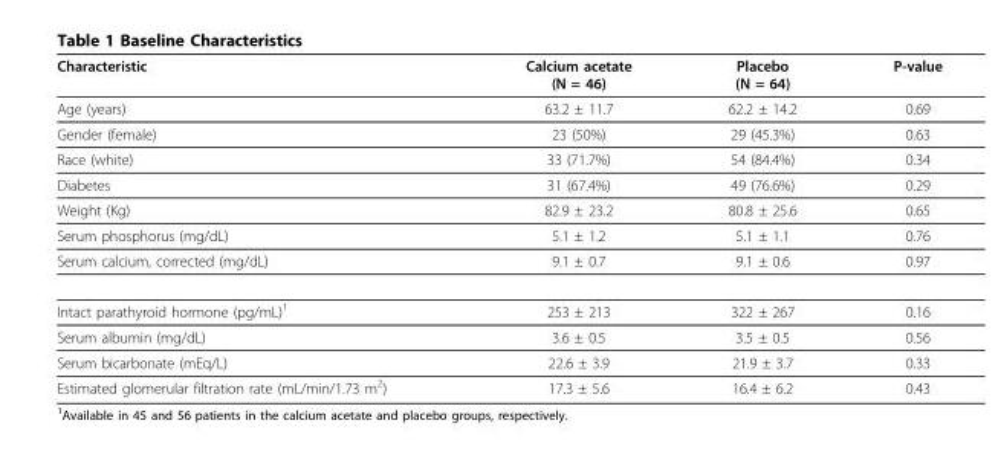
<table><thead><tr><td>Characteristic</td><td>Calcium acetate (N = 46)</td><td>Placebo (N = 64)</td><td>P-value</td></tr></thead><tbody><tr><td>Age (years)</td><td>63.2 ± 11.7</td><td>62.2 ± 14.2</td><td>0.69</td></tr><tr><td>Gender (female)</td><td>23 (50%)</td><td>29 (45.3%)</td><td>0.63</td></tr><tr><td>Race (white)</td><td>33 (71.7%)</td><td>54 (84.4%)</td><td>0.34</td></tr><tr><td>Diabetes</td><td>31 (67.4%)</td><td>49 (76.6%)</td><td>0.29</td></tr><tr><td>Weight (Kg)</td><td>82.9 ± 23.2</td><td>80.8 ± 25.6</td><td>0.65</td></tr><tr><td>Serum phosphorus (mg/dL)</td><td>5.1 ± 1.2</td><td>5.1 ± 1.1</td><td>0.76</td></tr><tr><td>Serum calcium, corrected (mg/dL)</td><td>9.1 ± 0.7</td><td>9.1 ± 0.6</td><td>0.97</td></tr><tr><td>Intact parathyroid hormone (pg/mL)1</td><td>253 ± 213</td><td>322 ± 267</td><td>0.16</td></tr><tr><td>Serum albumin (mg/dL)</td><td>3.6 ± 0.5</td><td>3.5 ± 0.5</td><td>0.56</td></tr><tr><td>Serum bicarbonate (mEq/L)</td><td>22.6 ± 3.9</td><td>21.9 ± 3.7</td><td>0.33</td></tr><tr><td>Estimated glomerular filtration rate (mL/min/1.73 m2)</td><td>17.3 ± 5.6</td><td>16.4 ± 6.2</td><td>0.43</td></tr></tbody></table>